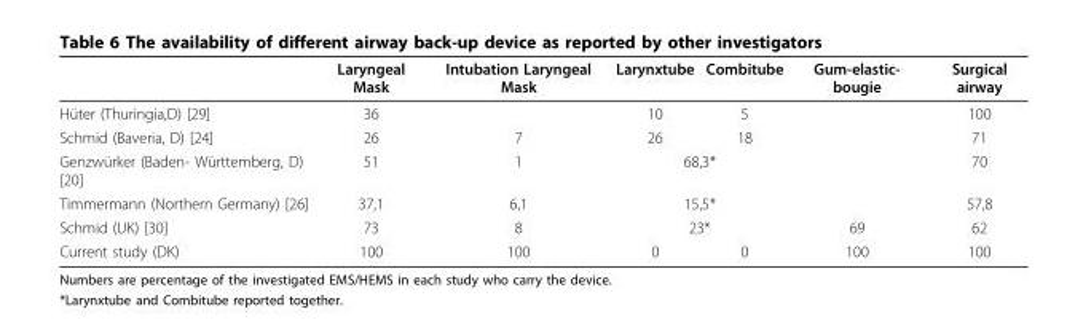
<table><thead><tr><td></td><td>Laryngeal Mask</td><td>Intubation Laryngeal Mask</td><td>Larynxtube</td><td>Combitube</td><td>Gum-elastic- bougie</td><td>Surgical airway</td></tr></thead><tbody><tr><td>Hüter (Thuringia,D) [29]</td><td>36</td><td></td><td>10</td><td>5</td><td></td><td>100</td></tr><tr><td>Schmid (Baveria, D) [24]</td><td>26</td><td>7</td><td>26</td><td>18</td><td></td><td>71</td></tr><tr><td>Genzwürker (Baden- Württemberg, D) [20]</td><td>51</td><td>1</td><td colspan="2">68,3*</td><td></td><td>70</td></tr><tr><td>Timmermann (Northern Germany) [26]</td><td>37,1</td><td>6,1</td><td colspan="2">15,5*</td><td></td><td>57,8</td></tr><tr><td>Schmid (UK) [30]</td><td>73</td><td>8</td><td colspan="2">23*</td><td>69</td><td>62</td></tr><tr><td>Current study (DK)</td><td>100</td><td>100</td><td>0</td><td>0</td><td>100</td><td>100</td></tr></tbody></table>